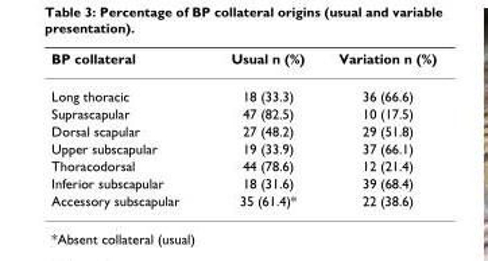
<table><thead><tr><td>BP collateral</td><td>Usual n (%)</td><td>Variation n (%)</td></tr></thead><tbody><tr><td>Long thoracic</td><td>18 (33.3)</td><td>36 (66.6)</td></tr><tr><td>Suprascapular</td><td>47 (82.5)</td><td>10 (17.5)</td></tr><tr><td>Dorsal scapular</td><td>27 (48.2)</td><td>29 (51.8)</td></tr><tr><td>Upper subscapular</td><td>19 (33.9)</td><td>37 (66.1)</td></tr><tr><td>Thoracodorsal</td><td>44 (78.6)</td><td>12 (21.4)</td></tr><tr><td>Inferior subscapular</td><td>18 (31.6)</td><td>39 (68.4)</td></tr><tr><td>Accessory subscapular</td><td>35 (61.4)*</td><td>22 (38.6)</td></tr></tbody></table>